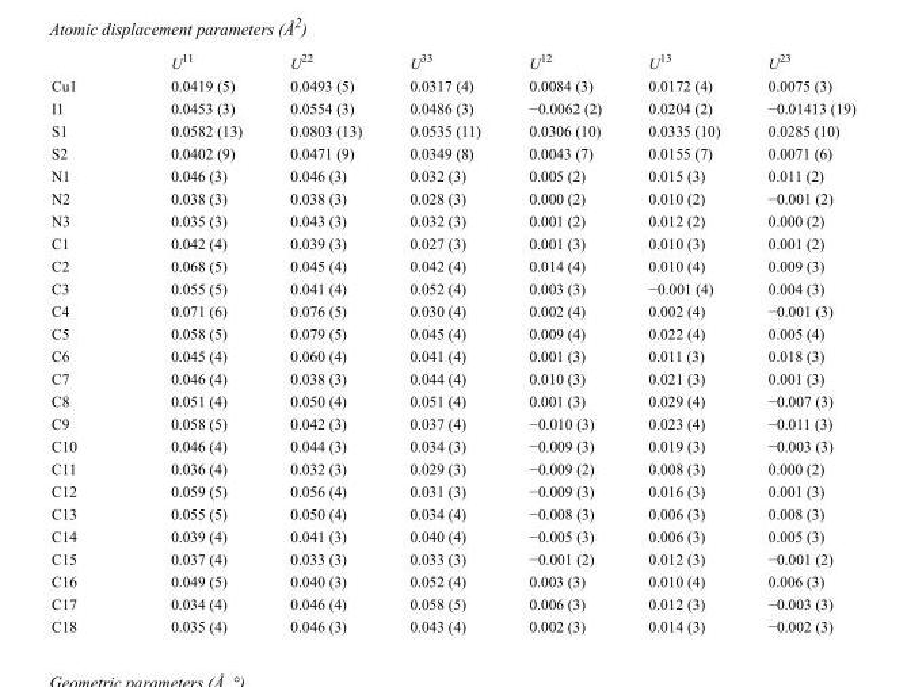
<table><thead><tr><td></td><td>U<sup>11</sup></td><td>U<sup>22</sup></td><td>U<sup>33</sup></td><td>U<sup>12</sup></td><td>U<sup>13</sup></td><td>U<sup>23</sup></td></tr></thead><tbody><tr><td>Cu1</td><td>0.0419 (5)</td><td>0.0493 (5)</td><td>0.0317 (4)</td><td>0.0084 (3)</td><td>0.0172 (4)</td><td>0.0075 (3)</td></tr><tr><td>I1</td><td>0.0453 (3)</td><td>0.0554 (3)</td><td>0.0486 (3)</td><td>−0.0062 (2)</td><td>0.0204 (2)</td><td>−0.01413 (19)</td></tr><tr><td>S1</td><td>0.0582 (13)</td><td>0.0803 (13)</td><td>0.0535 (11)</td><td>0.0306 (10)</td><td>0.0335 (10)</td><td>0.0285 (10)</td></tr><tr><td>S2</td><td>0.0402 (9)</td><td>0.0471 (9)</td><td>0.0349 (8)</td><td>0.0043 (7)</td><td>0.0155 (7)</td><td>0.0071 (6)</td></tr><tr><td>N1</td><td>0.046 (3)</td><td>0.046 (3)</td><td>0.032 (3)</td><td>0.005 (2)</td><td>0.015 (3)</td><td>0.011 (2)</td></tr><tr><td>N2</td><td>0.038 (3)</td><td>0.038 (3)</td><td>0.028 (3)</td><td>0.000 (2)</td><td>0.010 (2)</td><td>−0.001 (2)</td></tr><tr><td>N3</td><td>0.035 (3)</td><td>0.043 (3)</td><td>0.032 (3)</td><td>0.001 (2)</td><td>0.012 (2)</td><td>0.000 (2)</td></tr><tr><td>C1</td><td>0.042 (4)</td><td>0.039 (3)</td><td>0.027 (3)</td><td>0.001 (3)</td><td>0.010 (3)</td><td>0.001 (2)</td></tr><tr><td>C2</td><td>0.068 (5)</td><td>0.045 (4)</td><td>0.042 (4)</td><td>0.014 (4)</td><td>0.010 (4)</td><td>0.009 (3)</td></tr><tr><td>C3</td><td>0.055 (5)</td><td>0.041 (4)</td><td>0.052 (4)</td><td>0.003 (3)</td><td>−0.001 (4)</td><td>0.004 (3)</td></tr><tr><td>C4</td><td>0.071 (6)</td><td>0.076 (5)</td><td>0.030 (4)</td><td>0.002 (4)</td><td>0.002 (4)</td><td>−0.001 (3)</td></tr><tr><td>C5</td><td>0.058 (5)</td><td>0.079 (5)</td><td>0.045 (4)</td><td>0.009 (4)</td><td>0.022 (4)</td><td>0.005 (4)</td></tr><tr><td>C6</td><td>0.045 (4)</td><td>0.060 (4)</td><td>0.041 (4)</td><td>0.001 (3)</td><td>0.011 (3)</td><td>0.018 (3)</td></tr><tr><td>C7</td><td>0.046 (4)</td><td>0.038 (3)</td><td>0.044 (4)</td><td>0.010 (3)</td><td>0.021 (3)</td><td>0.001 (3)</td></tr><tr><td>C8</td><td>0.051 (4)</td><td>0.050 (4)</td><td>0.051 (4)</td><td>0.001 (3)</td><td>0.029 (4)</td><td>−0.007 (3)</td></tr><tr><td>C9</td><td>0.058 (5)</td><td>0.042 (3)</td><td>0.037 (4)</td><td>−0.010 (3)</td><td>0.023 (4)</td><td>−0.011 (3)</td></tr><tr><td>C10</td><td>0.046 (4)</td><td>0.044 (3)</td><td>0.034 (3)</td><td>−0.009 (3)</td><td>0.019 (3)</td><td>−0.003 (3)</td></tr><tr><td>C11</td><td>0.036 (4)</td><td>0.032 (3)</td><td>0.029 (3)</td><td>−0.009 (2)</td><td>0.008 (3)</td><td>0.000 (2)</td></tr><tr><td>C12</td><td>0.059 (5)</td><td>0.056 (4)</td><td>0.031 (3)</td><td>−0.009 (3)</td><td>0.016 (3)</td><td>0.001 (3)</td></tr><tr><td>C13</td><td>0.055 (5)</td><td>0.050 (4)</td><td>0.034 (4)</td><td>−0.008 (3)</td><td>0.006 (3)</td><td>0.008 (3)</td></tr><tr><td>C14</td><td>0.039 (4)</td><td>0.041 (3)</td><td>0.040 (4)</td><td>−0.005 (3)</td><td>0.006 (3)</td><td>0.005 (3)</td></tr><tr><td>C15</td><td>0.037 (4)</td><td>0.033 (3)</td><td>0.033 (3)</td><td>−0.001 (2)</td><td>0.012 (3)</td><td>−0.001 (2)</td></tr><tr><td>C16</td><td>0.049 (5)</td><td>0.040 (3)</td><td>0.052 (4)</td><td>0.003 (3)</td><td>0.010 (4)</td><td>0.006 (3)</td></tr><tr><td>C17</td><td>0.034 (4)</td><td>0.046 (4)</td><td>0.058 (5)</td><td>0.006 (3)</td><td>0.012 (3)</td><td>−0.003 (3)</td></tr><tr><td>C18</td><td>0.035 (4)</td><td>0.046 (3)</td><td>0.043 (4)</td><td>0.002 (3)</td><td>0.014 (3)</td><td>−0.002 (3)</td></tr></tbody></table>